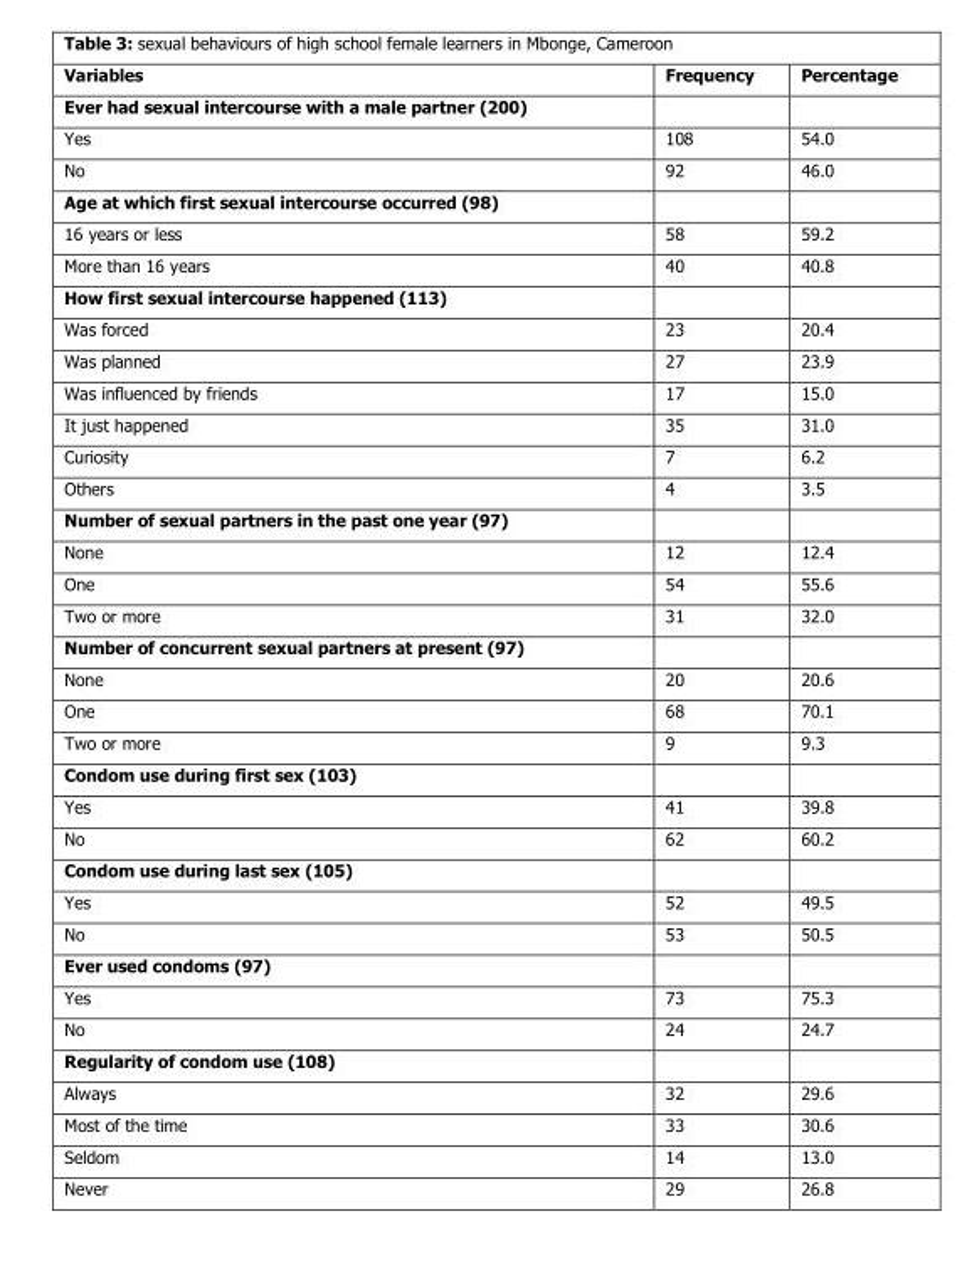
<table><thead><tr><td>Variables</td><td>Frequency</td><td>Percentage</td></tr></thead><tbody><tr><td colspan="3">Ever had sexual intercourse with a male partner (200)</td></tr><tr><td>Yes</td><td>108</td><td>54.0</td></tr><tr><td>No</td><td>92</td><td>46.0</td></tr><tr><td colspan="3">Age at which first sexual intercourse occurred (98)</td></tr><tr><td>16 years or less</td><td>58</td><td>59.2</td></tr><tr><td>More than 16 years</td><td>40</td><td>40.8</td></tr><tr><td colspan="3">How first sexual intercourse happened (113)</td></tr><tr><td>Was forced</td><td>23</td><td>20.4</td></tr><tr><td>Was planned</td><td>27</td><td>23.9</td></tr><tr><td>Was influenced by friends</td><td>17</td><td>15.0</td></tr><tr><td>It just happened</td><td>35</td><td>31.0</td></tr><tr><td>Curiosity</td><td>7</td><td>6.2</td></tr><tr><td>Others</td><td>4</td><td>3.5</td></tr><tr><td colspan="3">Number of sexual partners in the past one year (97)</td></tr><tr><td>None</td><td>12</td><td>12.4</td></tr><tr><td>One</td><td>54</td><td>55.6</td></tr><tr><td>Two or more</td><td>31</td><td>32.0</td></tr><tr><td colspan="3">Number of concurrent sexual partners at present (97)</td></tr><tr><td>None</td><td>20</td><td>20.6</td></tr><tr><td>One</td><td>68</td><td>70.1</td></tr><tr><td>Two or more</td><td>9</td><td>9.3</td></tr><tr><td colspan="3">Condom use during first sex (103)</td></tr><tr><td>Yes</td><td>41</td><td>39.8</td></tr><tr><td>No</td><td>62</td><td>60.2</td></tr><tr><td colspan="3">Condom use during last sex (105)</td></tr><tr><td>Yes</td><td>52</td><td>49.5</td></tr><tr><td>No</td><td>53</td><td>50.5</td></tr><tr><td colspan="3">Ever used condoms (97)</td></tr><tr><td>Yes</td><td>73</td><td>75.3</td></tr><tr><td>No</td><td>24</td><td>24.7</td></tr><tr><td colspan="3">Regularity of condom use (108)</td></tr><tr><td>Always</td><td>32</td><td>29.6</td></tr><tr><td>Most of the time</td><td>33</td><td>30.6</td></tr><tr><td>Seldom</td><td>14</td><td>13.0</td></tr><tr><td>Never</td><td>29</td><td>26.8</td></tr></tbody></table>